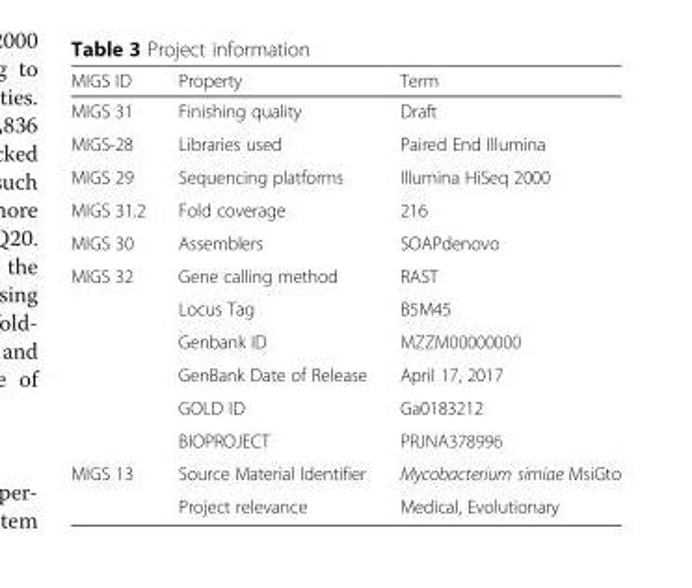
<table><thead><tr><td>MIGS ID</td><td>Property</td><td>Term</td></tr></thead><tbody><tr><td>MIGS 31</td><td>Finishing quality</td><td>Draft</td></tr><tr><td>MIGS-28</td><td>Libraries used</td><td>Paired End Illumina</td></tr><tr><td>MIGS 29</td><td>Sequencing platforms</td><td>Illumina HiSeq 2000</td></tr><tr><td>MIGS 31.2</td><td>Fold coverage</td><td>216</td></tr><tr><td>MIGS 30</td><td>Assemblers</td><td>SOAPdenovo</td></tr><tr><td rowspan="6">MIGS 32</td><td>Gene calling method</td><td>RAST</td></tr><tr><td>Locus Tag</td><td>B5M45</td></tr><tr><td>Genbank ID</td><td>MZZM00000000</td></tr><tr><td>GenBank Date of Release</td><td>April 17, 2017</td></tr><tr><td>GOLD ID</td><td>Ga0183212</td></tr><tr><td>BIOPROJECT</td><td>PRJNA378996</td></tr><tr><td rowspan="2">MIGS 13</td><td>Source Material Identifier</td><td>Mycobacterium simiae MsiGto</td></tr><tr><td>Project relevance</td><td>Medical, Evolutionary</td></tr></tbody></table>